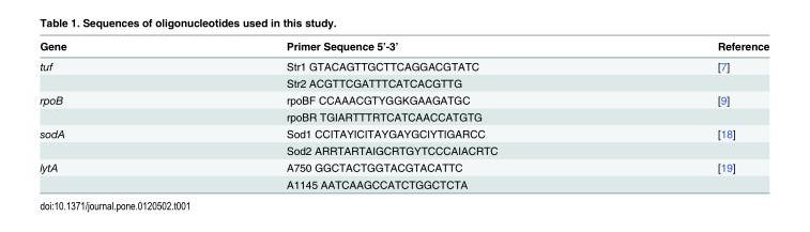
<table><thead><tr><td>Gene</td><td>Primer Sequence 5’-3’</td><td>Reference</td></tr></thead><tbody><tr><td rowspan="2">tuf</td><td>Str1 GTACAGTTGCTTCAGGACGTATC</td><td>[7]</td></tr><tr><td>Str2 ACGTTCGATTTCATCACGTTG</td><td></td></tr><tr><td rowspan="2">rpoB</td><td>rpoBF CCAAACGTYGGKGAAGATGC</td><td>[9]</td></tr><tr><td>rpoBR TGIARTTTRTCATCAACCATGTG</td><td></td></tr><tr><td rowspan="2">sodA</td><td>Sod1 CCITAYICITAYGAYGCIYTIGARCC</td><td>[18]</td></tr><tr><td>Sod2 ARRTARTAIGCRTGYTCCCAIACRTC</td><td></td></tr><tr><td rowspan="2">lytA</td><td>A750 GGCTACTGGTACGTACATTC</td><td>[19]</td></tr><tr><td>A1145 AATCAAGCCATCTGGCTCTA</td><td></td></tr></tbody></table>